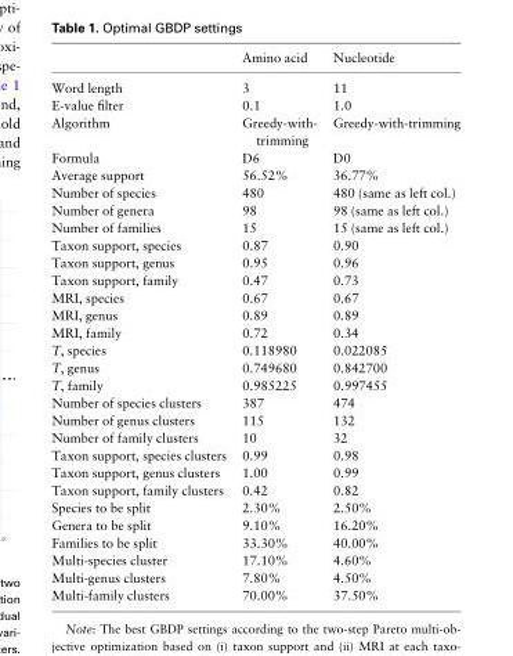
<table><thead><tr><td></td><td>Amino acid</td><td>Nucleotide</td></tr></thead><tbody><tr><td>Word length</td><td>3</td><td>11</td></tr><tr><td>E-value filter</td><td>0.1</td><td>1.0</td></tr><tr><td>Algorithm</td><td>Greedy-with- trimming</td><td>Greedy-with-trimming</td></tr><tr><td>Formula</td><td>D6</td><td>D0</td></tr><tr><td>Average support</td><td>56.52%</td><td>36.77%</td></tr><tr><td>Number of species</td><td>480</td><td>480 (same as left col.)</td></tr><tr><td>Number of genera</td><td>98</td><td>98 (same as left col.)</td></tr><tr><td>Number of families</td><td>15</td><td>15 (same as left col.)</td></tr><tr><td>Taxon support, species</td><td>0.87</td><td>0.90</td></tr><tr><td>Taxon support, genus</td><td>0.95</td><td>0.96</td></tr><tr><td>Taxon support, family</td><td>0.47</td><td>0.73</td></tr><tr><td>MRI, species</td><td>0.67</td><td>0.67</td></tr><tr><td>MRI, genus</td><td>0.89</td><td>0.89</td></tr><tr><td>MRI, family</td><td>0.72</td><td>0.34</td></tr><tr><td>T, species</td><td>0.118980</td><td>0.022085</td></tr><tr><td>T, genus</td><td>0.749680</td><td>0.842700</td></tr><tr><td>T, family</td><td>0.985225</td><td>0.997455</td></tr><tr><td>Number of species clusters</td><td>387</td><td>474</td></tr><tr><td>Number of genus clusters</td><td>115</td><td>132</td></tr><tr><td>Number of family clusters</td><td>10</td><td>32</td></tr><tr><td>Taxon support, species clusters</td><td>0.99</td><td>0.98</td></tr><tr><td>Taxon support, genus clusters</td><td>1.00</td><td>0.99</td></tr><tr><td>Taxon support, family clusters</td><td>0.42</td><td>0.82</td></tr><tr><td>Species to be split</td><td>2.30%</td><td>2.50%</td></tr><tr><td>Genera to be split</td><td>9.10%</td><td>16.20%</td></tr><tr><td>Families to be split</td><td>33.30%</td><td>40.00%</td></tr><tr><td>Multi-species cluster</td><td>17.10%</td><td>4.60%</td></tr><tr><td>Multi-genus clusters</td><td>7.80%</td><td>4.50%</td></tr><tr><td>Multi-family clusters</td><td>70.00%</td><td>37.50%</td></tr></tbody></table>